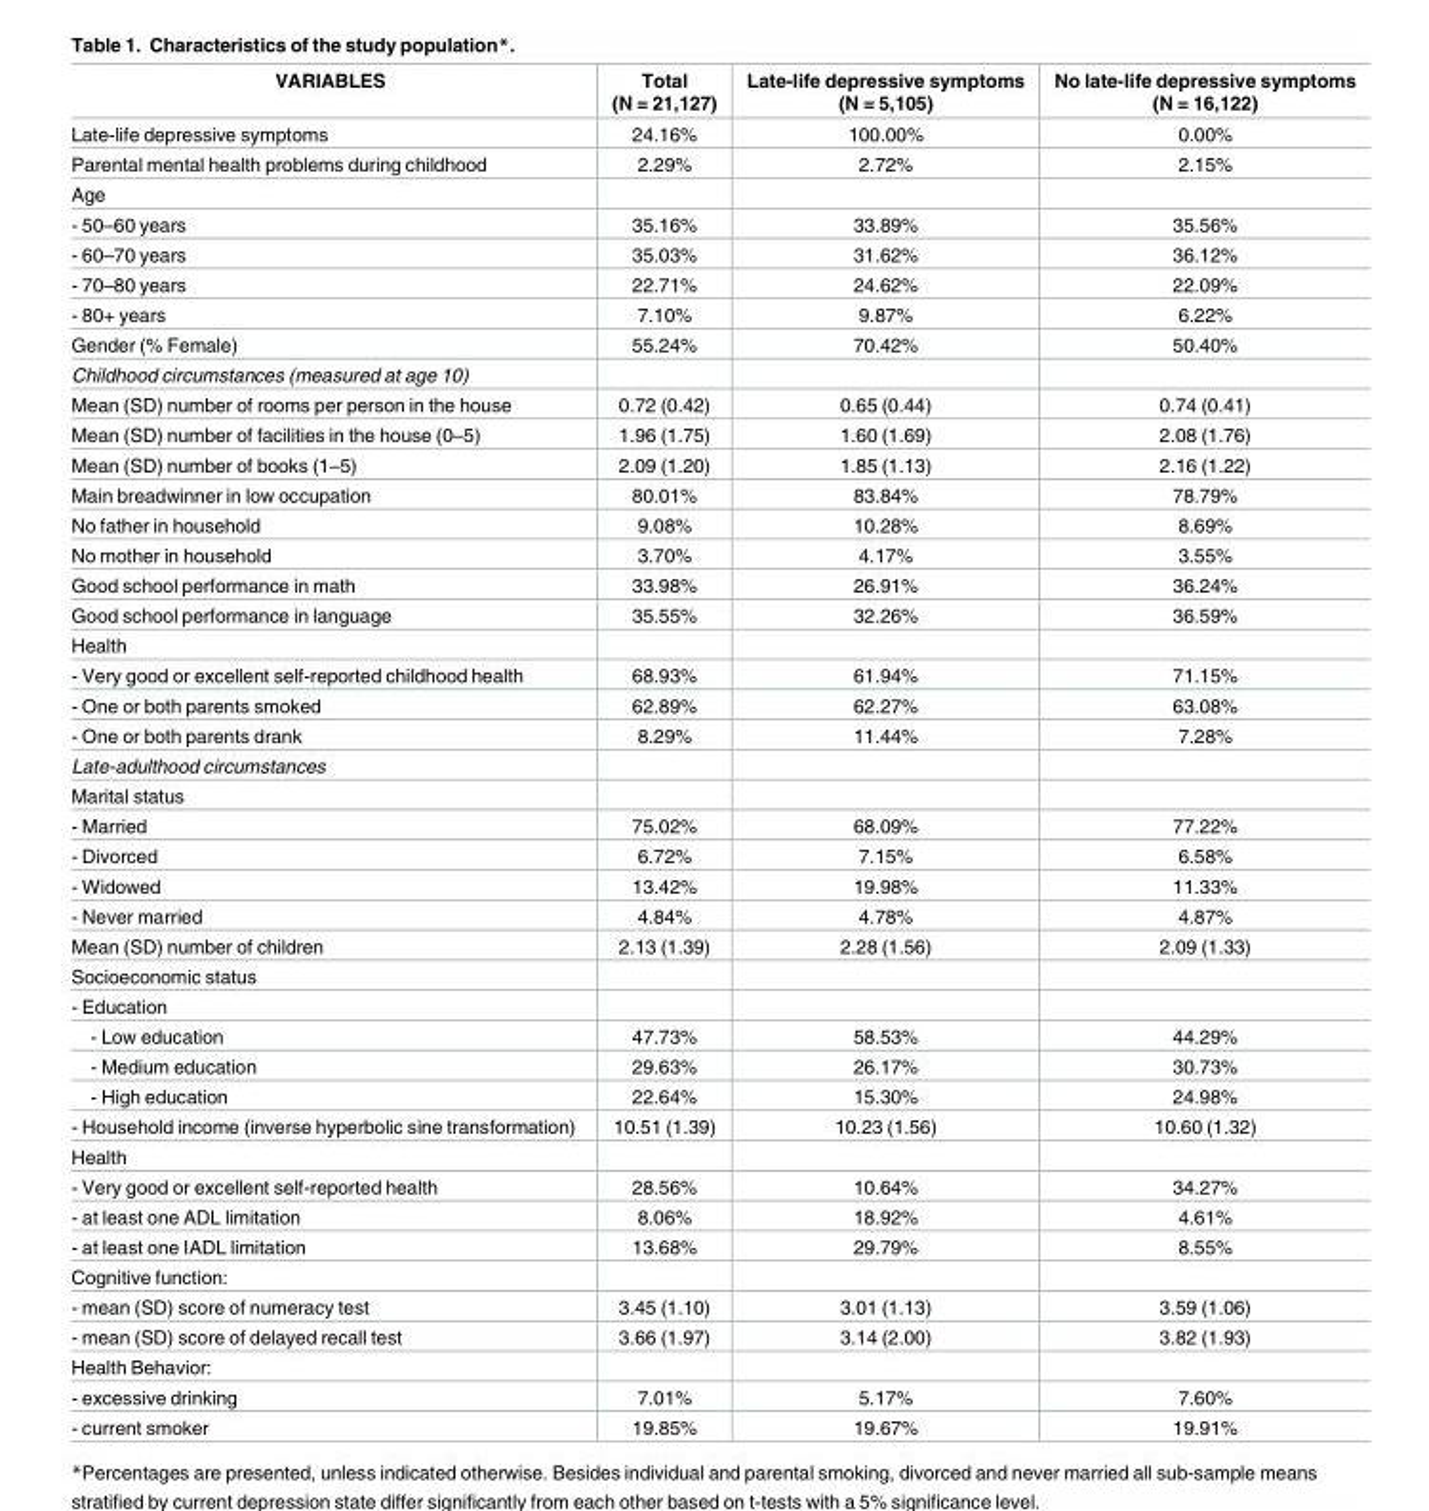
<table><thead><tr><td>VARIABLES</td><td>Total (N = 21,127)</td><td>Late-life depressive symptoms (N = 5,105)</td><td>No late-life depressive symptoms (N = 16,122)</td></tr></thead><tbody><tr><td>Late-life depressive symptoms</td><td>24.16%</td><td>100.00%</td><td>0.00%</td></tr><tr><td>Parental mental health problems during childhood</td><td>2.29%</td><td>2.72%</td><td>2.15%</td></tr><tr><td colspan="4">Age</td></tr><tr><td>- 50–60 years</td><td>35.16%</td><td>33.89%</td><td>35.56%</td></tr><tr><td>- 60–70 years</td><td>35.03%</td><td>31.62%</td><td>36.12%</td></tr><tr><td>- 70–80 years</td><td>22.71%</td><td>24.62%</td><td>22.09%</td></tr><tr><td>- 80+ years</td><td>7.10%</td><td>9.87%</td><td>6.22%</td></tr><tr><td>Gender (% Female)</td><td>55.24%</td><td>70.42%</td><td>50.40%</td></tr><tr><td colspan="4">Childhood circumstances (measured at age 10)</td></tr><tr><td>Mean (SD) number of rooms per person in the house</td><td>0.72 (0.42)</td><td>0.65 (0.44)</td><td>0.74 (0.41)</td></tr><tr><td>Mean (SD) number of facilities in the house (0–5)</td><td>1.96 (1.75)</td><td>1.60 (1.69)</td><td>2.08 (1.76)</td></tr><tr><td>Mean (SD) number of books (1–5)</td><td>2.09 (1.20)</td><td>1.85 (1.13)</td><td>2.16 (1.22)</td></tr><tr><td>Main breadwinner in low occupation</td><td>80.01%</td><td>83.84%</td><td>78.79%</td></tr><tr><td>No father in household</td><td>9.08%</td><td>10.28%</td><td>8.69%</td></tr><tr><td>No mother in household</td><td>3.70%</td><td>4.17%</td><td>3.55%</td></tr><tr><td>Good school performance in math</td><td>33.98%</td><td>26.91%</td><td>36.24%</td></tr><tr><td>Good school performance in language</td><td>35.55%</td><td>32.26%</td><td>36.59%</td></tr><tr><td colspan="4">Health</td></tr><tr><td>- Very good or excellent self-reported childhood health</td><td>68.93%</td><td>61.94%</td><td>71.15%</td></tr><tr><td>- One or both parents smoked</td><td>62.89%</td><td>62.27%</td><td>63.08%</td></tr><tr><td>- One or both parents drank</td><td>8.29%</td><td>11.44%</td><td>7.28%</td></tr><tr><td colspan="4">Late-adulthood circumstances</td></tr><tr><td colspan="4">Marital status</td></tr><tr><td>- Married</td><td>75.02%</td><td>68.09%</td><td>77.22%</td></tr><tr><td>- Divorced</td><td>6.72%</td><td>7.15%</td><td>6.58%</td></tr><tr><td>- Widowed</td><td>13.42%</td><td>19.98%</td><td>11.33%</td></tr><tr><td>- Never married</td><td>4.84%</td><td>4.78%</td><td>4.87%</td></tr><tr><td>Mean (SD) number of children</td><td>2.13 (1.39)</td><td>2.28 (1.56)</td><td>2.09 (1.33)</td></tr><tr><td colspan="4">Socioeconomic status</td></tr><tr><td colspan="4">- Education</td></tr><tr><td>- Low education</td><td>47.73%</td><td>58.53%</td><td>44.29%</td></tr><tr><td>- Medium education</td><td>29.63%</td><td>26.17%</td><td>30.73%</td></tr><tr><td>- High education</td><td>22.64%</td><td>15.30%</td><td>24.98%</td></tr><tr><td>- Household income (inverse hyperbolic sine transformation)</td><td>10.51 (1.39)</td><td>10.23 (1.56)</td><td>10.60 (1.32)</td></tr><tr><td colspan="4">Health</td></tr><tr><td>- Very good or excellent self-reported health</td><td>28.56%</td><td>10.64%</td><td>34.27%</td></tr><tr><td>- at least one ADL limitation</td><td>8.06%</td><td>18.92%</td><td>4.61%</td></tr><tr><td>- at least one IADL limitation</td><td>13.68%</td><td>29.79%</td><td>8.55%</td></tr><tr><td colspan="4">Cognitive function:</td></tr><tr><td>- mean (SD) score of numeracy test</td><td>3.45 (1.10)</td><td>3.01 (1.13)</td><td>3.59 (1.06)</td></tr><tr><td>- mean (SD) score of delayed recall test</td><td>3.66 (1.97)</td><td>3.14 (2.00)</td><td>3.82 (1.93)</td></tr><tr><td colspan="4">Health Behavior:</td></tr><tr><td>- excessive drinking</td><td>7.01%</td><td>5.17%</td><td>7.60%</td></tr><tr><td>- current smoker</td><td>19.85%</td><td>19.67%</td><td>19.91%</td></tr></tbody></table>